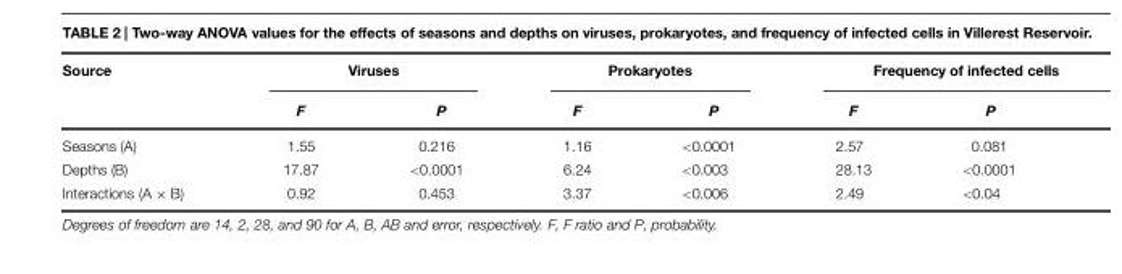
<table><thead><tr><td rowspan="2">Source</td><td colspan="2">Viruses</td><td colspan="2">Prokaryotes</td><td colspan="2">Frequency of infected cells</td></tr><tr><td>F</td><td>P</td><td>F</td><td>P</td><td>F</td><td>P</td></tr></thead><tbody><tr><td>Seasons (A)</td><td>1.55</td><td>0.216</td><td>1.16</td><td>&lt;0.0001</td><td>2.57</td><td>0.081</td></tr><tr><td>Depths (B)</td><td>17.87</td><td>&lt;0.0001</td><td>6.24</td><td>&lt;0.003</td><td>28.13</td><td>&lt;0.0001</td></tr><tr><td>Interactions (A × B)</td><td>0.92</td><td>0.453</td><td>3.37</td><td>&lt;0.006</td><td>2.49</td><td>&lt;0.04</td></tr></tbody></table>